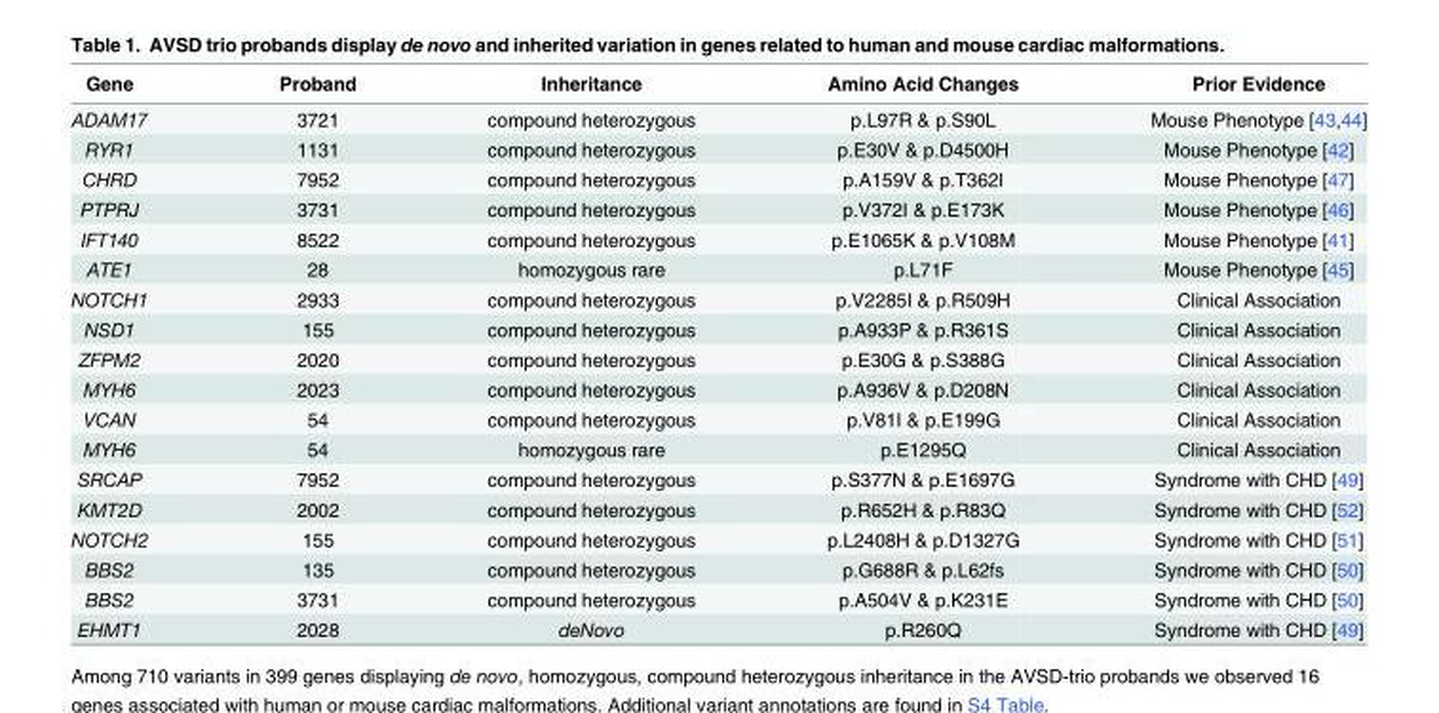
<table><thead><tr><td>Gene</td><td>Proband</td><td>Inheritance</td><td>Amino Acid Changes</td><td>Prior Evidence</td></tr></thead><tbody><tr><td>ADAM17</td><td>3721</td><td>compound heterozygous</td><td>p.L97R &amp; p.S90L</td><td>Mouse Phenotype [43,44]</td></tr><tr><td>RYR1</td><td>1131</td><td>compound heterozygous</td><td>p.E30V &amp; p.D4500H</td><td>Mouse Phenotype [42]</td></tr><tr><td>CHRD</td><td>7952</td><td>compound heterozygous</td><td>p.A159V &amp; p.T362I</td><td>Mouse Phenotype [47]</td></tr><tr><td>PTPRJ</td><td>3731</td><td>compound heterozygous</td><td>p.V372I &amp; p.E173K</td><td>Mouse Phenotype [46]</td></tr><tr><td>IFT140</td><td>8522</td><td>compound heterozygous</td><td>p.E1065K &amp; p.V108M</td><td>Mouse Phenotype [41]</td></tr><tr><td>ATE1</td><td>28</td><td>homozygous rare</td><td>p.L71F</td><td>Mouse Phenotype [45]</td></tr><tr><td>NOTCH1</td><td>2933</td><td>compound heterozygous</td><td>p.V2285I &amp; p.R509H</td><td>Clinical Association</td></tr><tr><td>NSD1</td><td>155</td><td>compound heterozygous</td><td>p.A933P &amp; p.R361S</td><td>Clinical Association</td></tr><tr><td>ZFPM2</td><td>2020</td><td>compound heterozygous</td><td>p.E30G &amp; p.S388G</td><td>Clinical Association</td></tr><tr><td>MYH6</td><td>2023</td><td>compound heterozygous</td><td>p.A936V &amp; p.D208N</td><td>Clinical Association</td></tr><tr><td>VCAN</td><td>54</td><td>compound heterozygous</td><td>p.V81I &amp; p.E199G</td><td>Clinical Association</td></tr><tr><td>MYH6</td><td>54</td><td>homozygous rare</td><td>p.E1295Q</td><td>Clinical Association</td></tr><tr><td>SRCAP</td><td>7952</td><td>compound heterozygous</td><td>p.S377N &amp; p.E1697G</td><td>Syndrome with CHD [49]</td></tr><tr><td>KMT2D</td><td>2002</td><td>compound heterozygous</td><td>p.R652H &amp; p.R83Q</td><td>Syndrome with CHD [52]</td></tr><tr><td>NOTCH2</td><td>155</td><td>compound heterozygous</td><td>p.L2408H &amp; p.D1327G</td><td>Syndrome with CHD [51]</td></tr><tr><td>BBS2</td><td>135</td><td>compound heterozygous</td><td>p.G688R &amp; p.L62fs</td><td>Syndrome with CHD [50]</td></tr><tr><td>BBS2</td><td>3731</td><td>compound heterozygous</td><td>p.A504V &amp; p.K231E</td><td>Syndrome with CHD [50]</td></tr><tr><td>EHMT1</td><td>2028</td><td>deNovo</td><td>p.R260Q</td><td>Syndrome with CHD [49]</td></tr></tbody></table>